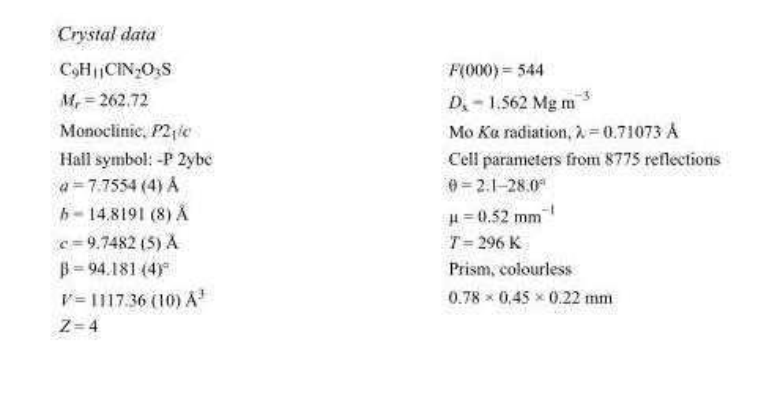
<table><tbody><tr><td>C<sub>9</sub>H<sub>11</sub>ClN<sub>2</sub>O<sub>3</sub>S</td><td>F(000) = 544</td></tr><tr><td>M<sub>r</sub> = 262.72</td><td>D<sub>x</sub> = 1.562 Mg m<sup>−3</sup></td></tr><tr><td>Monoclinic, P2<sub>1</sub>/c</td><td>Mo Kα radiation, λ = 0.71073 Å</td></tr><tr><td>Hall symbol: -P 2ybc</td><td>Cell parameters from 8775 reflections</td></tr><tr><td>a = 7.7554 (4) Å</td><td>θ = 2.1–28.0°</td></tr><tr><td>b = 14.8191 (8) Å</td><td>µ = 0.52 mm<sup>−1</sup></td></tr><tr><td>c = 9.7482 (5) Å</td><td>T = 296 K</td></tr><tr><td>β = 94.181 (4)°</td><td>Prism, colourless</td></tr><tr><td>V = 1117.36 (10) Å<sup>3</sup></td><td>0.78 × 0.45 × 0.22 mm</td></tr><tr><td>Z = 4</td><td></td></tr></tbody></table>